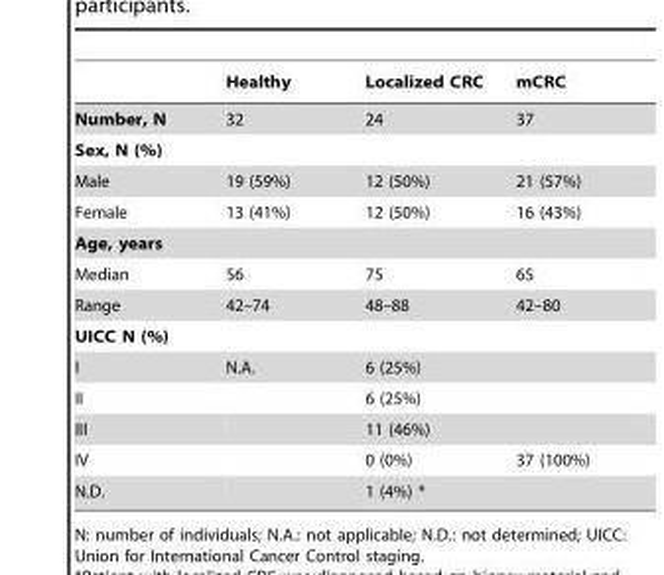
<table><thead><tr><td></td><td>Healthy</td><td>Localized CRC</td><td>mCRC</td></tr></thead><tbody><tr><td>Number, N</td><td>32</td><td>24</td><td>37</td></tr><tr><td colspan="4">Sex, N (%)</td></tr><tr><td>Male</td><td>19 (59%)</td><td>12 (50%)</td><td>21 (57%)</td></tr><tr><td>Female</td><td>13 (41%)</td><td>12 (50%)</td><td>16 (43%)</td></tr><tr><td colspan="4">Age, years</td></tr><tr><td>Median</td><td>56</td><td>75</td><td>65</td></tr><tr><td>Range</td><td>42–74</td><td>48–88</td><td>42–80</td></tr><tr><td colspan="4">UICC N (%)</td></tr><tr><td>I</td><td>N.A.</td><td>6 (25%)</td><td></td></tr><tr><td>II</td><td></td><td>6 (25%)</td><td></td></tr><tr><td>III</td><td></td><td>11 (46%)</td><td></td></tr><tr><td>IV</td><td></td><td>0 (0%)</td><td>37 (100%)</td></tr><tr><td>N.D.</td><td></td><td>1 (4%) *</td><td></td></tr></tbody></table>